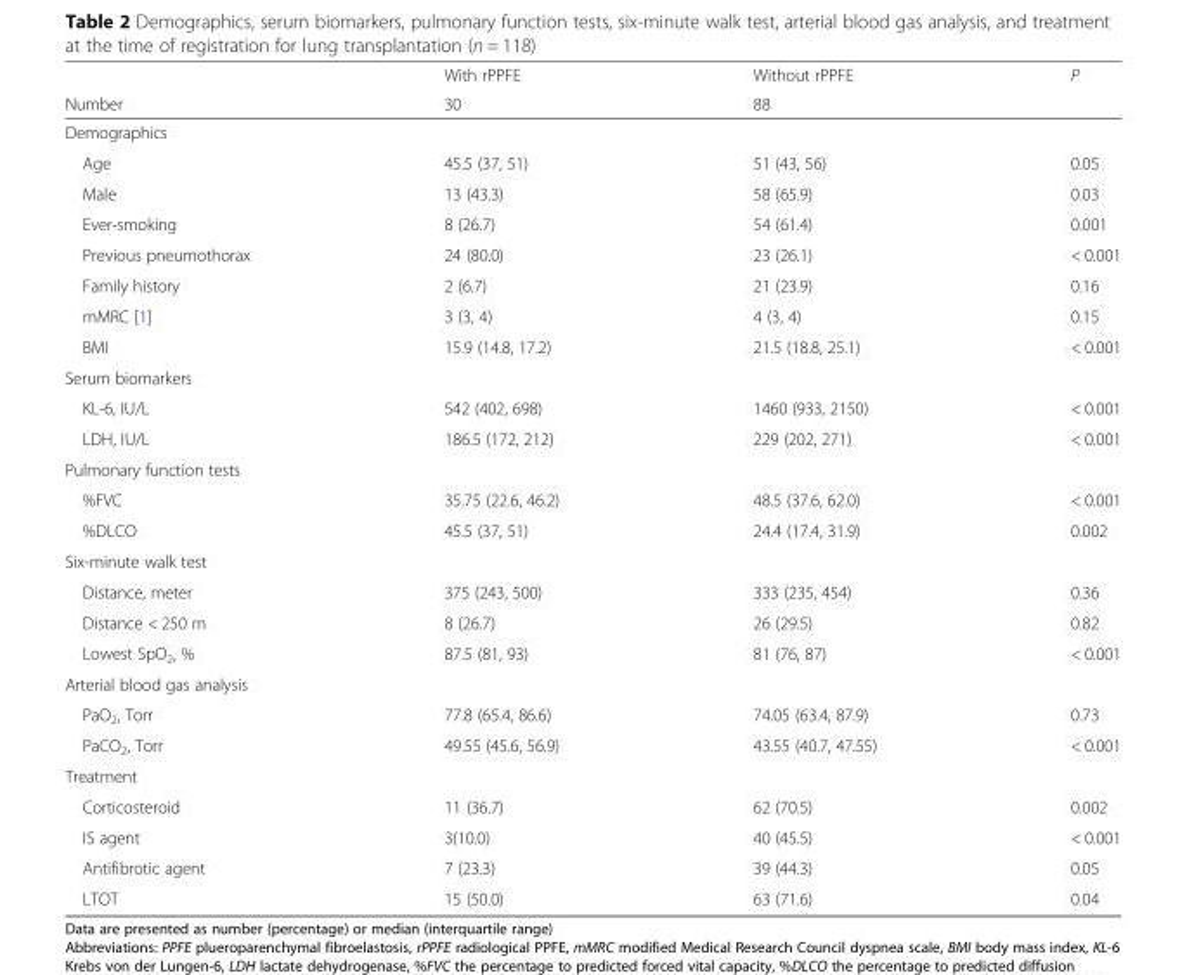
<table><thead><tr><td rowspan="2">Number</td><td rowspan="2">With rPPFE 30</td><td rowspan="2">Without rPPFE 88</td><td rowspan="2">P</td></tr><tr></tr></thead><tbody><tr><td colspan="4">Demographics</td></tr><tr><td>Age</td><td>45.5 (37, 51)</td><td>51 (43, 56)</td><td>0.05</td></tr><tr><td>Male</td><td>13 (43.3)</td><td>58 (65.9)</td><td>0.03</td></tr><tr><td>Ever-smoking</td><td>8 (26.7)</td><td>54 (61.4)</td><td>0.001</td></tr><tr><td>Previous pneumothorax</td><td>24 (80.0)</td><td>23 (26.1)</td><td>&lt; 0.001</td></tr><tr><td>Family history</td><td>2 (6.7)</td><td>21 (23.9)</td><td>0.16</td></tr><tr><td>mMRC [1]</td><td>3 (3, 4)</td><td>4 (3, 4)</td><td>0.15</td></tr><tr><td>BMI</td><td>15.9 (14.8, 17.2)</td><td>21.5 (18.8, 25.1)</td><td>&lt; 0.001</td></tr><tr><td colspan="4">Serum biomarkers</td></tr><tr><td>KL-6, IU/L</td><td>542 (402, 698)</td><td>1460 (933, 2150)</td><td>&lt; 0.001</td></tr><tr><td>LDH, IU/L</td><td>186.5 (172, 212)</td><td>229 (202, 271)</td><td>&lt; 0.001</td></tr><tr><td colspan="4">Pulmonary function tests</td></tr><tr><td>%FVC</td><td>35.75 (22.6, 46.2)</td><td>48.5 (37.6, 62.0)</td><td>&lt; 0.001</td></tr><tr><td>%DLCO</td><td>45.5 (37, 51)</td><td>24.4 (17.4, 31.9)</td><td>0.002</td></tr><tr><td colspan="4">Six-minute walk test</td></tr><tr><td>Distance, meter</td><td>375 (243, 500)</td><td>333 (235, 454)</td><td>0.36</td></tr><tr><td>Distance &lt; 250 m</td><td>8 (26.7)</td><td>26 (29.5)</td><td>0.82</td></tr><tr><td>Lowest SpO<sub>2</sub>, %</td><td>87.5 (81, 93)</td><td>81 (76, 87)</td><td>&lt; 0.001</td></tr><tr><td colspan="4">Arterial blood gas analysis</td></tr><tr><td>PaO<sub>2</sub>, Torr</td><td>77.8 (65.4, 86.6)</td><td>74.05 (63.4, 87.9)</td><td>0.73</td></tr><tr><td>PaCO<sub>2</sub>, Torr</td><td>49.55 (45.6, 56.9)</td><td>43.55 (40.7, 47.55)</td><td>&lt; 0.001</td></tr><tr><td colspan="4">Treatment</td></tr><tr><td>Corticosteroid</td><td>11 (36.7)</td><td>62 (70.5)</td><td>0.002</td></tr><tr><td>IS agent</td><td>3(10.0)</td><td>40 (45.5)</td><td>&lt; 0.001</td></tr><tr><td>Antifibrotic agent</td><td>7 (23.3)</td><td>39 (44.3)</td><td>0.05</td></tr><tr><td>LTOT</td><td>15 (50.0)</td><td>63 (71.6)</td><td>0.04</td></tr></tbody></table>